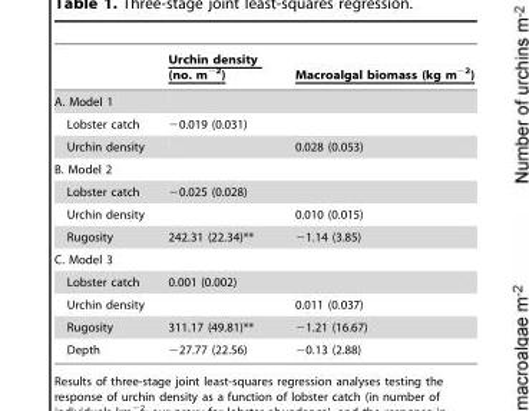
<table><thead><tr><td></td><td>Urchin density (no. m<sup>−2</sup>)</td><td>Macroalgal biomass (kg m<sup>−2</sup>)</td></tr></thead><tbody><tr><td colspan="3">A. Model 1</td></tr><tr><td>Lobster catch</td><td>−0.019 (0.031)</td><td></td></tr><tr><td>Urchin density</td><td></td><td>0.028 (0.053)</td></tr><tr><td colspan="3">B. Model 2</td></tr><tr><td>Lobster catch</td><td>−0.025 (0.028)</td><td></td></tr><tr><td>Urchin density</td><td></td><td>0.010 (0.015)</td></tr><tr><td>Rugosity</td><td>242.31 (22.34)**</td><td>−1.14 (3.85)</td></tr><tr><td colspan="3">C. Model 3</td></tr><tr><td>Lobster catch</td><td>0.001 (0.002)</td><td></td></tr><tr><td>Urchin density</td><td></td><td>0.011 (0.037)</td></tr><tr><td>Rugosity</td><td>311.17 (49.81)**</td><td>−1.21 (16.67)</td></tr><tr><td>Depth</td><td>−27.77 (22.56)</td><td>−0.13 (2.88)</td></tr></tbody></table>